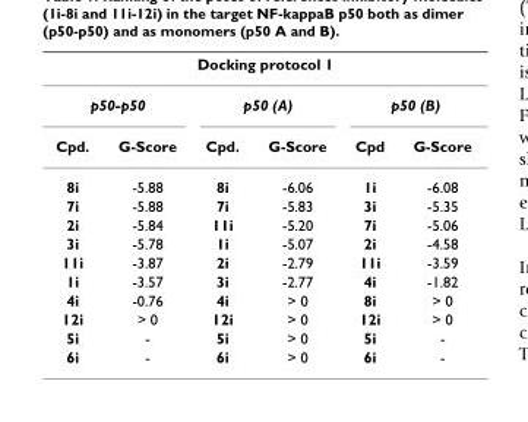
<table><thead><tr><td colspan="6">Docking protocol 1</td></tr><tr><td colspan="2">p50-p50</td><td colspan="2">p50 (A)</td><td colspan="2">p50 (B)</td></tr><tr><td>Cpd.</td><td>G-Score</td><td>Cpd.</td><td>G-Score</td><td>Cpd</td><td>G-Score</td></tr></thead><tbody><tr><td>8i</td><td>-5.88</td><td>8i</td><td>-6.06</td><td>1i</td><td>-6.08</td></tr><tr><td>7i</td><td>-5.88</td><td>7i</td><td>-5.83</td><td>3i</td><td>-5.35</td></tr><tr><td>2i</td><td>-5.84</td><td>11i</td><td>-5.20</td><td>7i</td><td>-5.06</td></tr><tr><td>3i</td><td>-5.78</td><td>1i</td><td>-5.07</td><td>2i</td><td>-4.58</td></tr><tr><td>11i</td><td>-3.87</td><td>2i</td><td>-2.79</td><td>11i</td><td>-3.59</td></tr><tr><td>1i</td><td>-3.57</td><td>3i</td><td>-2.77</td><td>4i</td><td>-1.82</td></tr><tr><td>4i</td><td>-0.76</td><td>4i</td><td>&gt; 0</td><td>8i</td><td>&gt; 0</td></tr><tr><td>12i</td><td>&gt; 0</td><td>12i</td><td>&gt; 0</td><td>12i</td><td>&gt; 0</td></tr><tr><td>5i</td><td>-</td><td>5i</td><td>&gt; 0</td><td>5i</td><td>-</td></tr><tr><td>6i</td><td>-</td><td>6i</td><td>&gt; 0</td><td>6i</td><td>-</td></tr></tbody></table>